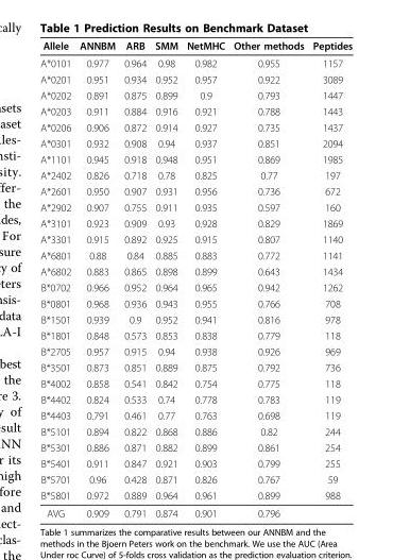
<table><thead><tr><td>Allele</td><td>ANNBM</td><td>ARB</td><td>SMM</td><td>NetMHC</td><td>Other methods</td><td>Peptides</td></tr></thead><tbody><tr><td>A*0101</td><td>0.977</td><td>0.964</td><td>0.98</td><td>0.982</td><td>0.955</td><td>1157</td></tr><tr><td>A*0201</td><td>0.951</td><td>0.934</td><td>0.952</td><td>0.957</td><td>0.922</td><td>3089</td></tr><tr><td>A*0202</td><td>0.891</td><td>0.875</td><td>0.899</td><td>0.9</td><td>0.793</td><td>1447</td></tr><tr><td>A*0203</td><td>0.911</td><td>0.884</td><td>0.916</td><td>0.921</td><td>0.788</td><td>1443</td></tr><tr><td>A*0206</td><td>0.906</td><td>0.872</td><td>0.914</td><td>0.927</td><td>0.735</td><td>1437</td></tr><tr><td>A*0301</td><td>0.932</td><td>0.908</td><td>0.94</td><td>0.937</td><td>0.851</td><td>2094</td></tr><tr><td>A*1101</td><td>0.945</td><td>0.918</td><td>0.948</td><td>0.951</td><td>0.869</td><td>1985</td></tr><tr><td>A*2402</td><td>0.826</td><td>0.718</td><td>0.78</td><td>0.825</td><td>0.77</td><td>197</td></tr><tr><td>A*2601</td><td>0.950</td><td>0.907</td><td>0.931</td><td>0.956</td><td>0.736</td><td>672</td></tr><tr><td>A*2902</td><td>0.907</td><td>0.755</td><td>0.911</td><td>0.935</td><td>0.597</td><td>160</td></tr><tr><td>A*3101</td><td>0.923</td><td>0.909</td><td>0.93</td><td>0.928</td><td>0.829</td><td>1869</td></tr><tr><td>A*3301</td><td>0.915</td><td>0.892</td><td>0.925</td><td>0.915</td><td>0.807</td><td>1140</td></tr><tr><td>A*6801</td><td>0.88</td><td>0.84</td><td>0.885</td><td>0.883</td><td>0.772</td><td>1141</td></tr><tr><td>A*6802</td><td>0.883</td><td>0.865</td><td>0.898</td><td>0.899</td><td>0.643</td><td>1434</td></tr><tr><td>B*0702</td><td>0.966</td><td>0.952</td><td>0.964</td><td>0.965</td><td>0.942</td><td>1262</td></tr><tr><td>B*0801</td><td>0.968</td><td>0.936</td><td>0.943</td><td>0.955</td><td>0.766</td><td>708</td></tr><tr><td>B*1501</td><td>0.939</td><td>0.9</td><td>0.952</td><td>0.941</td><td>0.816</td><td>978</td></tr><tr><td>B*1801</td><td>0.848</td><td>0.573</td><td>0.853</td><td>0.838</td><td>0.779</td><td>118</td></tr><tr><td>B*2705</td><td>0.957</td><td>0.915</td><td>0.94</td><td>0.938</td><td>0.926</td><td>969</td></tr><tr><td>B*3501</td><td>0.873</td><td>0.851</td><td>0.889</td><td>0.875</td><td>0.792</td><td>736</td></tr><tr><td>B*4002</td><td>0.858</td><td>0.541</td><td>0.842</td><td>0.754</td><td>0.775</td><td>118</td></tr><tr><td>B*4402</td><td>0.824</td><td>0.533</td><td>0.74</td><td>0.778</td><td>0.783</td><td>119</td></tr><tr><td>B*4403</td><td>0.791</td><td>0.461</td><td>0.77</td><td>0.763</td><td>0.698</td><td>119</td></tr><tr><td>B*5101</td><td>0.894</td><td>0.822</td><td>0.868</td><td>0.886</td><td>0.82</td><td>244</td></tr><tr><td>B*5301</td><td>0.886</td><td>0.871</td><td>0.882</td><td>0.899</td><td>0.861</td><td>254</td></tr><tr><td>B*5401</td><td>0.911</td><td>0.847</td><td>0.921</td><td>0.903</td><td>0.799</td><td>255</td></tr><tr><td>B*5701</td><td>0.96</td><td>0.428</td><td>0.871</td><td>0.826</td><td>0.767</td><td>59</td></tr><tr><td>B*5801</td><td>0.972</td><td>0.889</td><td>0.964</td><td>0.961</td><td>0.899</td><td>988</td></tr><tr><td>AVG</td><td>0.909</td><td>0.791</td><td>0.874</td><td>0.901</td><td>0.796</td><td></td></tr></tbody></table>